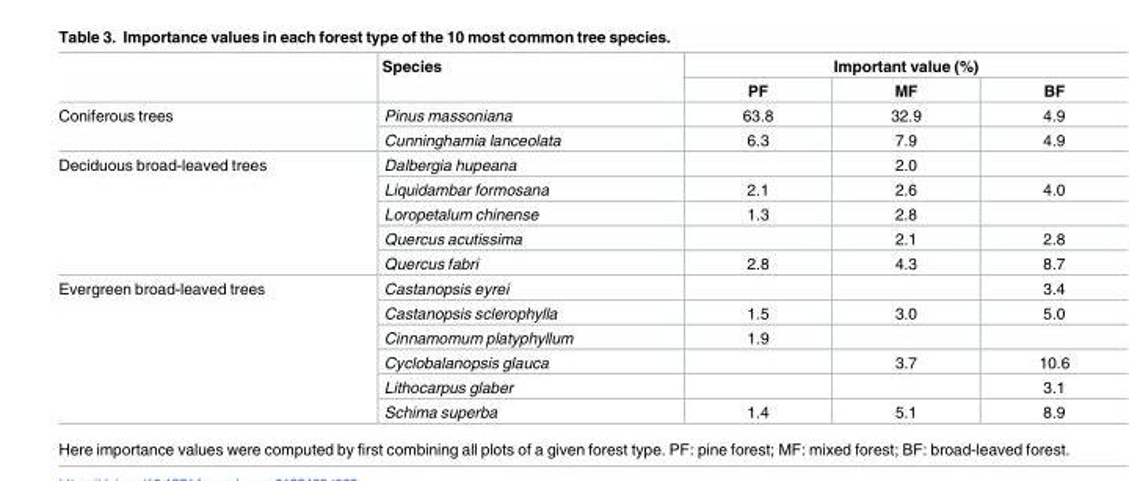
<table><thead><tr><td rowspan="2"></td><td rowspan="2">Species</td><td colspan="3">Important value (%)</td></tr><tr><td>PF</td><td>MF</td><td>BF</td></tr></thead><tbody><tr><td rowspan="2">Coniferous trees</td><td>Pinus massoniana</td><td>63.8</td><td>32.9</td><td>4.9</td></tr><tr><td>Cunninghamia lanceolata</td><td>6.3</td><td>7.9</td><td>4.9</td></tr><tr><td rowspan="5">Deciduous broad-leaved trees</td><td>Dalbergia hupeana</td><td></td><td>2.0</td><td></td></tr><tr><td>Liquidambar formosana</td><td>2.1</td><td>2.6</td><td>4.0</td></tr><tr><td>Loropetalum chinense</td><td>1.3</td><td>2.8</td><td></td></tr><tr><td>Quercus acutissima</td><td></td><td>2.1</td><td>2.8</td></tr><tr><td>Quercus fabri</td><td>2.8</td><td>4.3</td><td>8.7</td></tr><tr><td rowspan="6">Evergreen broad-leaved trees</td><td>Castanopsis eyrei</td><td></td><td></td><td>3.4</td></tr><tr><td>Castanopsis sclerophylla</td><td>1.5</td><td>3.0</td><td>5.0</td></tr><tr><td>Cinnamomum platyphyllum</td><td>1.9</td><td></td><td></td></tr><tr><td>Cyclobalanopsis glauca</td><td></td><td>3.7</td><td>10.6</td></tr><tr><td>Lithocarpus glaber</td><td></td><td></td><td>3.1</td></tr><tr><td>Schima superba</td><td>1.4</td><td>5.1</td><td>8.9</td></tr></tbody></table>